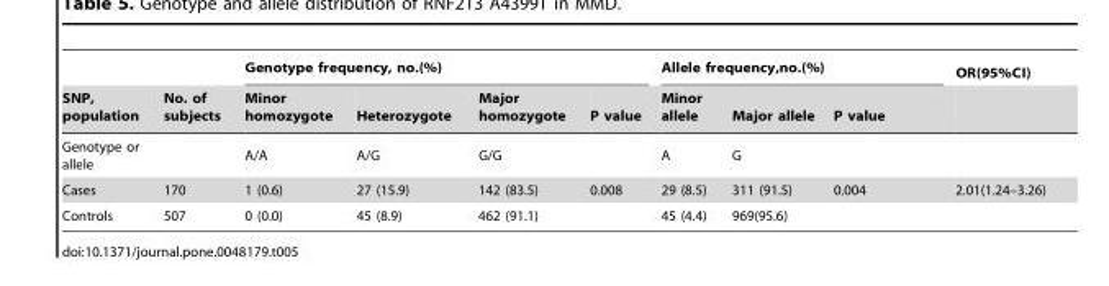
<table><thead><tr><td rowspan="2">SNP, population</td><td rowspan="2">No. of subjects</td><td colspan="4">Genotype frequency, no.(%)</td><td colspan="3">Allele frequency,no.(%)</td><td rowspan="2">OR(95%CI)</td></tr><tr><td>Minor homozygote</td><td>Heterozygote</td><td>Major homozygote</td><td>P value</td><td>Minor allele</td><td>Major allele</td><td>P value</td></tr></thead><tbody><tr><td>Genotype or allele</td><td></td><td>A/A</td><td>A/G</td><td>G/G</td><td></td><td>A</td><td>G</td><td></td><td></td></tr><tr><td>Cases</td><td>170</td><td>1 (0.6)</td><td>27 (15.9)</td><td>142 (83.5)</td><td>0.008</td><td>29 (8.5)</td><td>311 (91.5)</td><td>0.004</td><td>2.01(1.24–3.26)</td></tr><tr><td>Controls</td><td>507</td><td>0 (0.0)</td><td>45 (8.9)</td><td>462 (91.1)</td><td></td><td>45 (4.4)</td><td>969(95.6)</td><td></td><td></td></tr></tbody></table>